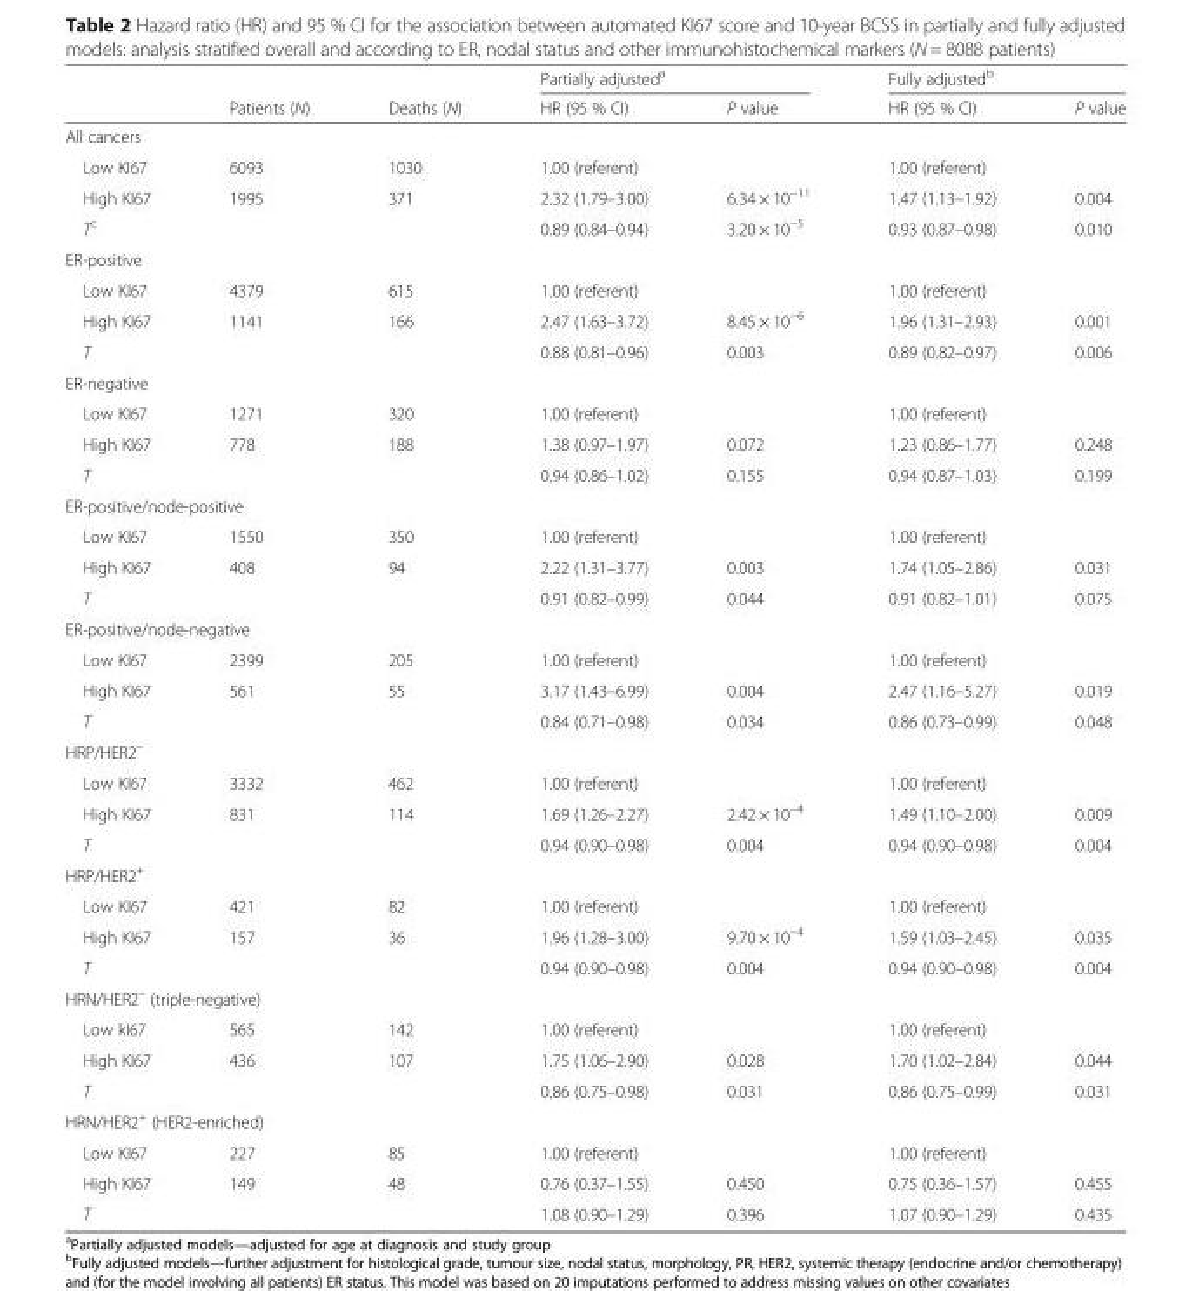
<table><thead><tr><td rowspan="2"></td><td rowspan="2">Patients (N)</td><td rowspan="2">Deaths (N)</td><td colspan="2">Partially adjusted<sup>a</sup></td><td colspan="2">Fully adjusted<sup>b</sup></td></tr><tr><td>HR (95 % CI)</td><td>P value</td><td>HR (95 % CI)</td><td>P value</td></tr></thead><tbody><tr><td colspan="7">All cancers</td></tr><tr><td>Low KI67</td><td>6093</td><td>1030</td><td>1.00 (referent)</td><td></td><td>1.00 (referent)</td><td></td></tr><tr><td>High KI67</td><td>1995</td><td>371</td><td>2.32 (1.79–3.00)</td><td>6.34 × 10<sup>−11</sup></td><td>1.47 (1.13–1.92)</td><td>0.004</td></tr><tr><td>T<sup>c</sup></td><td></td><td></td><td>0.89 (0.84–0.94)</td><td>3.20 × 10<sup>−5</sup></td><td>0.93 (0.87–0.98)</td><td>0.010</td></tr><tr><td colspan="7">ER-positive</td></tr><tr><td>Low KI67</td><td>4379</td><td>615</td><td>1.00 (referent)</td><td></td><td>1.00 (referent)</td><td></td></tr><tr><td>High KI67</td><td>1141</td><td>166</td><td>2.47 (1.63–3.72)</td><td>8.45 × 10<sup>−6</sup></td><td>1.96 (1.31–2.93)</td><td>0.001</td></tr><tr><td>T</td><td></td><td></td><td>0.88 (0.81–0.96)</td><td>0.003</td><td>0.89 (0.82–0.97)</td><td>0.006</td></tr><tr><td colspan="7">ER-negative</td></tr><tr><td>Low KI67</td><td>1271</td><td>320</td><td>1.00 (referent)</td><td></td><td>1.00 (referent)</td><td></td></tr><tr><td>High KI67</td><td>778</td><td>188</td><td>1.38 (0.97–1.97)</td><td>0.072</td><td>1.23 (0.86–1.77)</td><td>0.248</td></tr><tr><td>T</td><td></td><td></td><td>0.94 (0.86–1.02)</td><td>0.155</td><td>0.94 (0.87–1.03)</td><td>0.199</td></tr><tr><td colspan="7">ER-positive/node-positive</td></tr><tr><td>Low KI67</td><td>1550</td><td>350</td><td>1.00 (referent)</td><td></td><td>1.00 (referent)</td><td></td></tr><tr><td>High KI67</td><td>408</td><td>94</td><td>2.22 (1.31–3.77)</td><td>0.003</td><td>1.74 (1.05–2.86)</td><td>0.031</td></tr><tr><td>T</td><td></td><td></td><td>0.91 (0.82–0.99)</td><td>0.044</td><td>0.91 (0.82–1.01)</td><td>0.075</td></tr><tr><td colspan="7">ER-positive/node-negative</td></tr><tr><td>Low KI67</td><td>2399</td><td>205</td><td>1.00 (referent)</td><td></td><td>1.00 (referent)</td><td></td></tr><tr><td>High KI67</td><td>561</td><td>55</td><td>3.17 (1.43–6.99)</td><td>0.004</td><td>2.47 (1.16–5.27)</td><td>0.019</td></tr><tr><td>T</td><td></td><td></td><td>0.84 (0.71–0.98)</td><td>0.034</td><td>0.86 (0.73–0.99)</td><td>0.048</td></tr><tr><td colspan="7">HRP/HER2<sup>–</sup></td></tr><tr><td>Low KI67</td><td>3332</td><td>462</td><td>1.00 (referent)</td><td></td><td>1.00 (referent)</td><td></td></tr><tr><td>High KI67</td><td>831</td><td>114</td><td>1.69 (1.26–2.27)</td><td>2.42 × 10<sup>−4</sup></td><td>1.49 (1.10–2.00)</td><td>0.009</td></tr><tr><td>T</td><td></td><td></td><td>0.94 (0.90–0.98)</td><td>0.004</td><td>0.94 (0.90–0.98)</td><td>0.004</td></tr><tr><td colspan="7">HRP/HER2<sup>+</sup></td></tr><tr><td>Low KI67</td><td>421</td><td>82</td><td>1.00 (referent)</td><td></td><td>1.00 (referent)</td><td></td></tr><tr><td>High KI67</td><td>157</td><td>36</td><td>1.96 (1.28–3.00)</td><td>9.70 × 10<sup>−4</sup></td><td>1.59 (1.03–2.45)</td><td>0.035</td></tr><tr><td>T</td><td></td><td></td><td>0.94 (0.90–0.98)</td><td>0.004</td><td>0.94 (0.90–0.98)</td><td>0.004</td></tr><tr><td colspan="7">HRN/HER2<sup>–</sup> (triple-negative)</td></tr><tr><td>Low kI67</td><td>565</td><td>142</td><td>1.00 (referent)</td><td></td><td>1.00 (referent)</td><td></td></tr><tr><td>High KI67</td><td>436</td><td>107</td><td>1.75 (1.06–2.90)</td><td>0.028</td><td>1.70 (1.02–2.84)</td><td>0.044</td></tr><tr><td>T</td><td></td><td></td><td>0.86 (0.75–0.98)</td><td>0.031</td><td>0.86 (0.75–0.99)</td><td>0.031</td></tr><tr><td colspan="7">HRN/HER2<sup>+</sup> (HER2-enriched)</td></tr><tr><td>Low KI67</td><td>227</td><td>85</td><td>1.00 (referent)</td><td></td><td>1.00 (referent)</td><td></td></tr><tr><td>High KI67</td><td>149</td><td>48</td><td>0.76 (0.37–1.55)</td><td>0.450</td><td>0.75 (0.36–1.57)</td><td>0.455</td></tr><tr><td>T</td><td></td><td></td><td>1.08 (0.90–1.29)</td><td>0.396</td><td>1.07 (0.90–1.29)</td><td>0.435</td></tr></tbody></table>